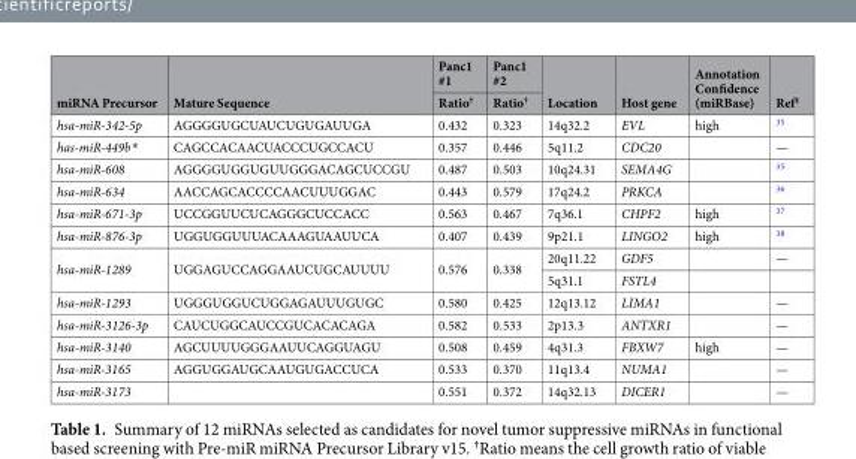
<table><thead><tr><td rowspan="2">miRNA Precursor</td><td rowspan="2">Mature Sequence</td><td rowspan="2">Panc1 #1 Ratio<sup>†</sup></td><td rowspan="2">Panc1 #2 Ratio<sup>†</sup></td><td rowspan="2">Location</td><td rowspan="2">Host gene</td><td rowspan="2">Annotation Confidence (miRBase)</td><td rowspan="2">Ref<sup>‡</sup></td></tr><tr></tr></thead><tbody><tr><td>hsa-miR-342-5p</td><td>AGGGGUGCUAUCUGUGAUUGA</td><td>0.432</td><td>0.323</td><td>14q32.2</td><td>EVL</td><td>high</td><td><sup>35</sup></td></tr><tr><td>has-miR-449b*</td><td>CAGCCACAACUACCCUGCCACU</td><td>0.357</td><td>0.446</td><td>5q11.2</td><td>CDC20</td><td></td><td>—</td></tr><tr><td>hsa-miR-608</td><td>AGGGGUGGUGUUGGGACAGCUCCGU</td><td>0.487</td><td>0.503</td><td>10q24.31</td><td>SEMA4G</td><td></td><td><sup>35</sup></td></tr><tr><td>hsa-miR-634</td><td>AACCAGCACCCCAACUUUGGAC</td><td>0.443</td><td>0.579</td><td>17q24.2</td><td>PRKCA</td><td></td><td><sup>36</sup></td></tr><tr><td>hsa-miR-671-3p</td><td>UCCGGUUCUCAGGGCUCCACC</td><td>0.563</td><td>0.467</td><td>7q36.1</td><td>CHPF2</td><td>high</td><td><sup>37</sup></td></tr><tr><td>hsa-miR-876-3p</td><td>UGGUGGUUUACAAAGUAAUUCA</td><td>0.407</td><td>0.439</td><td>9p21.1</td><td>LINGO2</td><td>high</td><td><sup>38</sup></td></tr><tr><td rowspan="2">hsa-miR-1289</td><td rowspan="2">UGGAGUCCAGGAAUCUGCAUUUU</td><td rowspan="2">0.576</td><td rowspan="2">0.338</td><td>20q11.22</td><td>GDF5</td><td></td><td>—</td></tr><tr><td>5q31.1</td><td>FSTL4</td><td></td><td></td></tr><tr><td>hsa-miR-1293</td><td>UGGGUGGUCUGGAGAUUUGUGC</td><td>0.580</td><td>0.425</td><td>12q13.12</td><td>LIMA1</td><td></td><td>—</td></tr><tr><td>hsa-miR-3126-3p</td><td>CAUCUGGCAUCCGUCACACAGA</td><td>0.582</td><td>0.533</td><td>2p13.3</td><td>ANTXR1</td><td></td><td>—</td></tr><tr><td>hsa-miR-3140</td><td>AGCUUUUGGGAAUUCAGGUAGU</td><td>0.508</td><td>0.459</td><td>4q31.3</td><td>FBXW7</td><td>high</td><td>—</td></tr><tr><td>hsa-miR-3165</td><td>AGGUGGAUGCAAUGUGACCUCA</td><td>0.533</td><td>0.370</td><td>11q13.4</td><td>NUMA1</td><td></td><td>—</td></tr><tr><td>hsa-miR-3173</td><td></td><td>0.551</td><td>0.372</td><td>14q32.13</td><td>DICER1</td><td></td><td>—</td></tr></tbody></table>